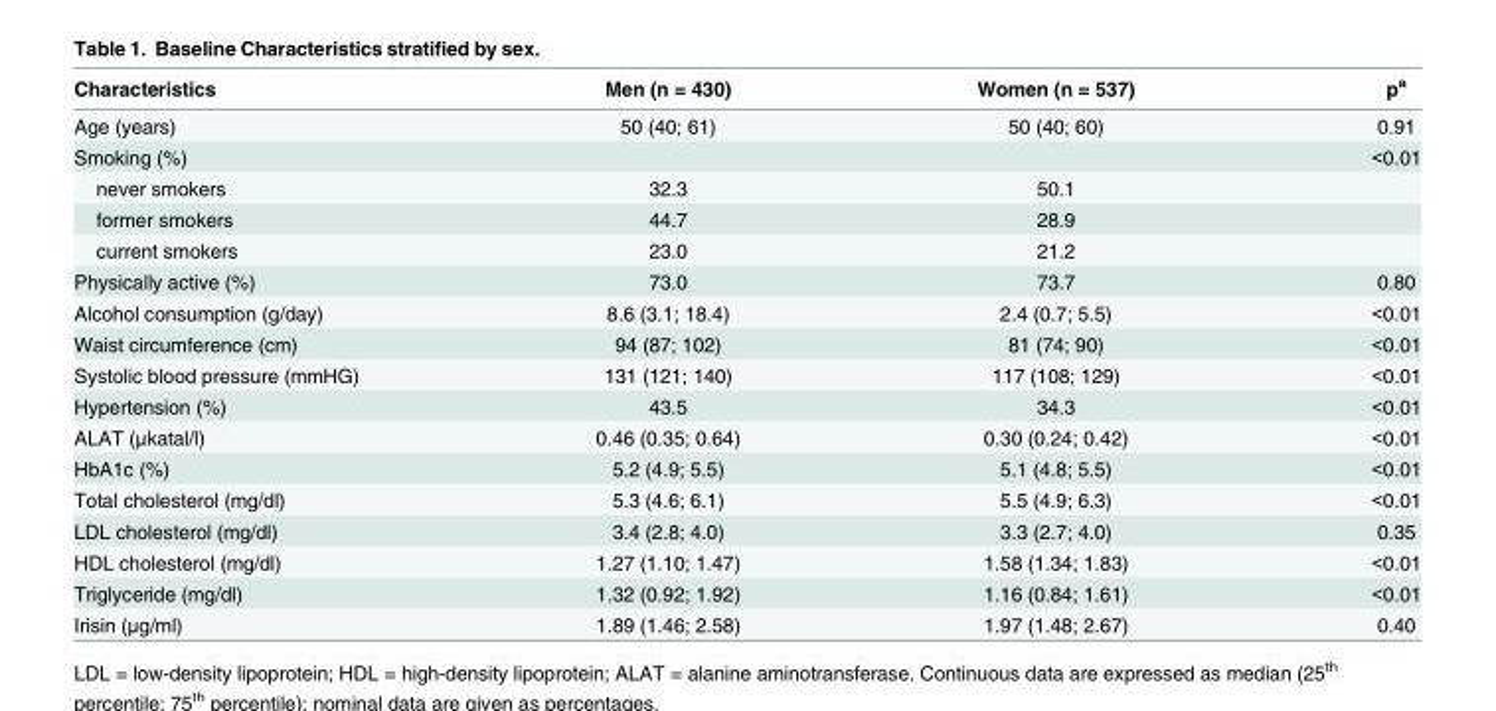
<table><thead><tr><td>Characteristics</td><td>Men (n = 430)</td><td>Women (n = 537)</td><td>p<sup>a</sup></td></tr></thead><tbody><tr><td>Age (years)</td><td>50 (40; 61)</td><td>50 (40; 60)</td><td>0.91</td></tr><tr><td>Smoking (%)</td><td></td><td></td><td>&lt;0.01</td></tr><tr><td>never smokers</td><td>32.3</td><td>50.1</td><td></td></tr><tr><td>former smokers</td><td>44.7</td><td>28.9</td><td></td></tr><tr><td>current smokers</td><td>23.0</td><td>21.2</td><td></td></tr><tr><td>Physically active (%)</td><td>73.0</td><td>73.7</td><td>0.80</td></tr><tr><td>Alcohol consumption (g/day)</td><td>8.6 (3.1; 18.4)</td><td>2.4 (0.7; 5.5)</td><td>&lt;0.01</td></tr><tr><td>Waist circumference (cm)</td><td>94 (87; 102)</td><td>81 (74; 90)</td><td>&lt;0.01</td></tr><tr><td>Systolic blood pressure (mmHG)</td><td>131 (121; 140)</td><td>117 (108; 129)</td><td>&lt;0.01</td></tr><tr><td>Hypertension (%)</td><td>43.5</td><td>34.3</td><td>&lt;0.01</td></tr><tr><td>ALAT (μkatal/l)</td><td>0.46 (0.35; 0.64)</td><td>0.30 (0.24; 0.42)</td><td>&lt;0.01</td></tr><tr><td>HbA1c (%)</td><td>5.2 (4.9; 5.5)</td><td>5.1 (4.8; 5.5)</td><td>&lt;0.01</td></tr><tr><td>Total cholesterol (mg/dl)</td><td>5.3 (4.6; 6.1)</td><td>5.5 (4.9; 6.3)</td><td>&lt;0.01</td></tr><tr><td>LDL cholesterol (mg/dl)</td><td>3.4 (2.8; 4.0)</td><td>3.3 (2.7; 4.0)</td><td>0.35</td></tr><tr><td>HDL cholesterol (mg/dl)</td><td>1.27 (1.10; 1.47)</td><td>1.58 (1.34; 1.83)</td><td>&lt;0.01</td></tr><tr><td>Triglyceride (mg/dl)</td><td>1.32 (0.92; 1.92)</td><td>1.16 (0.84; 1.61)</td><td>&lt;0.01</td></tr><tr><td>Irisin (μg/ml)</td><td>1.89 (1.46; 2.58)</td><td>1.97 (1.48; 2.67)</td><td>0.40</td></tr></tbody></table>